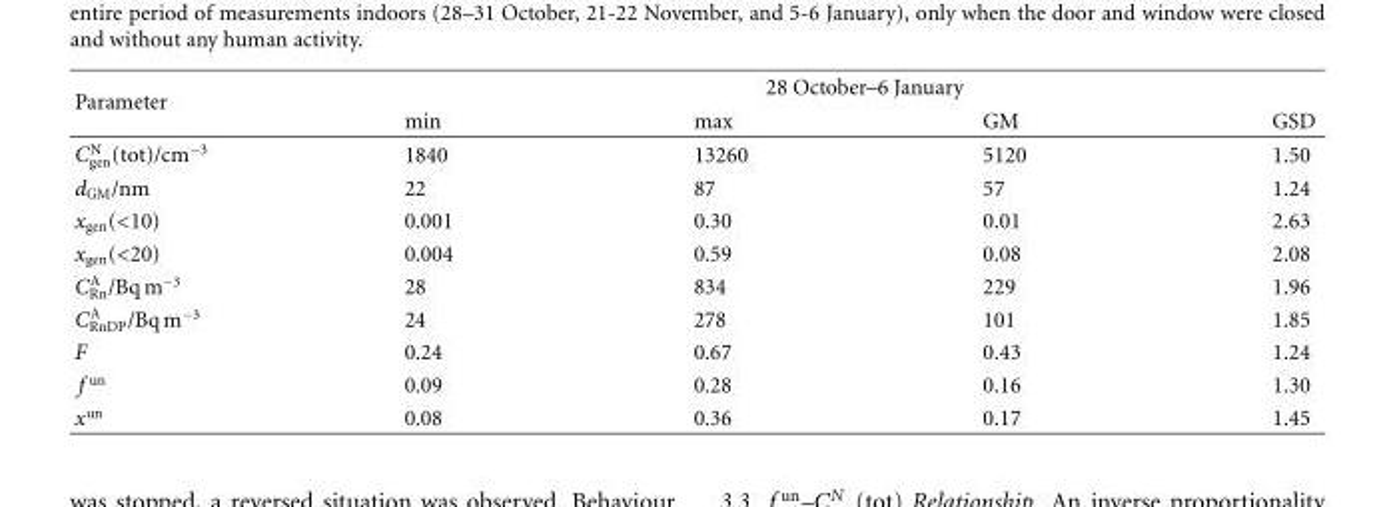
<table><tbody><tr><td rowspan="2">Parameter</td><td colspan="4">28 October–6 January</td></tr><tr><td>min</td><td>max</td><td>GM</td><td>GSD</td></tr><tr><td>CN gen(tot)/cm−3</td><td>1840</td><td>13260</td><td>5120</td><td>1.50</td></tr><tr><td>d<sub>GM</sub>/nm</td><td>22</td><td>87</td><td>57</td><td>1.24</td></tr><tr><td>x<sub>gen</sub>(&lt;10)</td><td>0.001</td><td>0.30</td><td>0.01</td><td>2.63</td></tr><tr><td>x<sub>gen</sub>(&lt;20)</td><td>0.004</td><td>0.59</td><td>0.08</td><td>2.08</td></tr><tr><td>CA Rn/Bq m−3</td><td>28</td><td>834</td><td>229</td><td>1.96</td></tr><tr><td>CA RnDP/Bq m−3</td><td>24</td><td>278</td><td>101</td><td>1.85</td></tr><tr><td>F</td><td>0.24</td><td>0.67</td><td>0.43</td><td>1.24</td></tr><tr><td>f <sup>un</sup></td><td>0.09</td><td>0.28</td><td>0.16</td><td>1.30</td></tr><tr><td>x<sup>un</sup></td><td>0.08</td><td>0.36</td><td>0.17</td><td>1.45</td></tr></tbody></table>